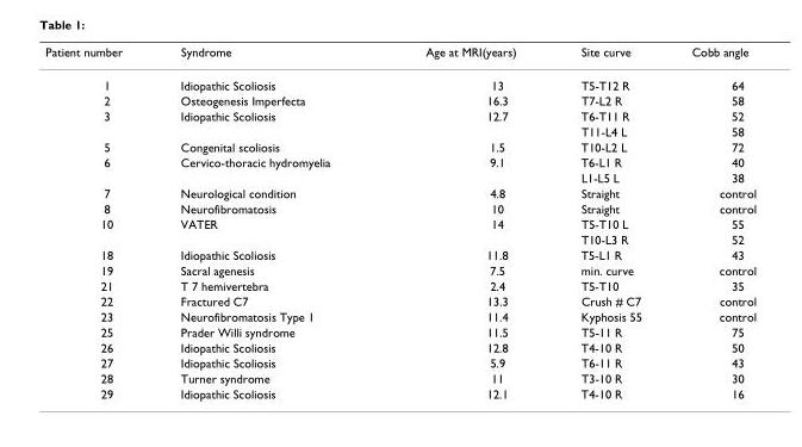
<table><thead><tr><td>Patient number</td><td>Syndrome</td><td>Age at MRI(years)</td><td>Site curve</td><td>Cobb angle</td></tr></thead><tbody><tr><td>1</td><td>Idiopathic Scoliosis</td><td>13</td><td>T5-T12 R</td><td>64</td></tr><tr><td>2</td><td>Osteogenesis Imperfecta</td><td>16.3</td><td>T7-L2 R</td><td>58</td></tr><tr><td rowspan="2">3</td><td>Idiopathic Scoliosis</td><td>12.7</td><td>T6-T11 R</td><td>52</td></tr><tr><td></td><td></td><td>T11-L4 L</td><td>58</td></tr><tr><td>5</td><td>Congenital scoliosis</td><td>1.5</td><td>T10-L2 L</td><td>72</td></tr><tr><td rowspan="2">6</td><td>Cervico-thoracic hydromyelia</td><td>9.1</td><td>T6-L1 R</td><td>40</td></tr><tr><td></td><td></td><td>L1-L5 L</td><td>38</td></tr><tr><td>7</td><td>Neurological condition</td><td>4.8</td><td>Straight</td><td>control</td></tr><tr><td>8</td><td>Neurofibromatosis</td><td>10</td><td>Straight</td><td>control</td></tr><tr><td rowspan="2">10</td><td>VATER</td><td>14</td><td>T5-T10 L</td><td>55</td></tr><tr><td></td><td></td><td>T10-L3 R</td><td>52</td></tr><tr><td>18</td><td>Idiopathic Scoliosis</td><td>11.8</td><td>T5-L1 R</td><td>43</td></tr><tr><td>19</td><td>Sacral agenesis</td><td>7.5</td><td>min. curve</td><td>control</td></tr><tr><td>21</td><td>T 7 hemivertebra</td><td>2.4</td><td>T5-T10</td><td>35</td></tr><tr><td>22</td><td>Fractured C7</td><td>13.3</td><td>Crush # C7</td><td>control</td></tr><tr><td>23</td><td>Neurofibromatosis Type 1</td><td>11.4</td><td>Kyphosis 55</td><td>control</td></tr><tr><td>25</td><td>Prader Willi syndrome</td><td>11.5</td><td>T5-11 R</td><td>75</td></tr><tr><td>26</td><td>Idiopathic Scoliosis</td><td>12.8</td><td>T4-10 R</td><td>50</td></tr><tr><td>27</td><td>Idiopathic Scoliosis</td><td>5.9</td><td>T6-11 R</td><td>43</td></tr><tr><td>28</td><td>Turner syndrome</td><td>11</td><td>T3-10 R</td><td>30</td></tr><tr><td>29</td><td>Idiopathic Scoliosis</td><td>12.1</td><td>T4-10 R</td><td>16</td></tr></tbody></table>